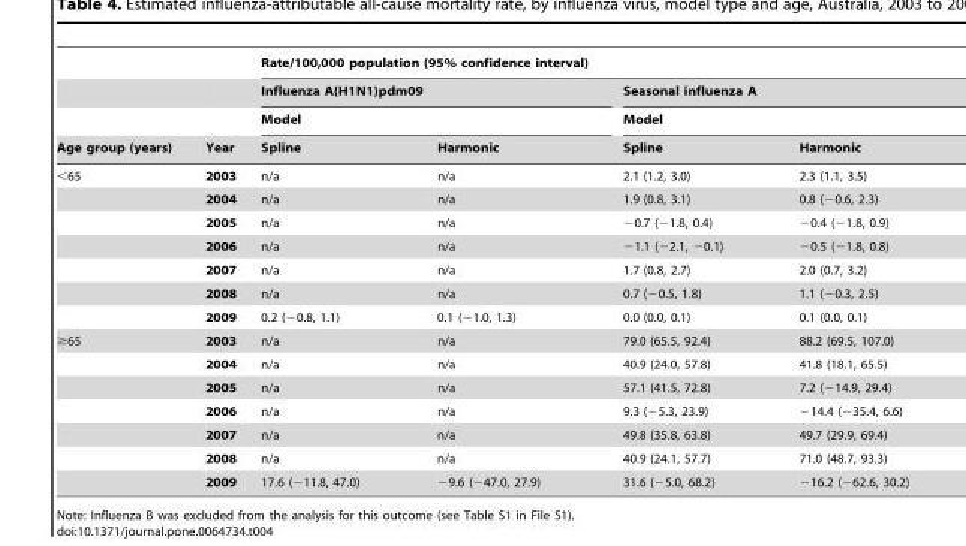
<table><thead><tr><td rowspan="4">Age group (years)</td><td rowspan="4">Year</td><td colspan="4">Rate/100,000 population (95% confidence interval)</td></tr><tr><td rowspan="2" colspan="2">Influenza A(H1N1)pdm09 Model</td><td rowspan="2" colspan="2">Seasonal influenza A Model</td></tr><tr></tr><tr><td>Spline</td><td>Harmonic</td><td>Spline</td><td>Harmonic</td></tr></thead><tbody><tr><td rowspan="7">&lt;65</td><td>2003</td><td>n/a</td><td>n/a</td><td>2.1 (1.2, 3.0)</td><td>2.3 (1.1, 3.5)</td></tr><tr><td>2004</td><td>n/a</td><td>n/a</td><td>1.9 (0.8, 3.1)</td><td>0.8 (−0.6, 2.3)</td></tr><tr><td>2005</td><td>n/a</td><td>n/a</td><td>−0.7 (−1.8, 0.4)</td><td>−0.4 (−1.8, 0.9)</td></tr><tr><td>2006</td><td>n/a</td><td>n/a</td><td>−1.1 (−2.1, −0.1)</td><td>−0.5 (−1.8, 0.8)</td></tr><tr><td>2007</td><td>n/a</td><td>n/a</td><td>1.7 (0.8, 2.7)</td><td>2.0 (0.7, 3.2)</td></tr><tr><td>2008</td><td>n/a</td><td>n/a</td><td>0.7 (−0.5, 1.8)</td><td>1.1 (−0.3, 2.5)</td></tr><tr><td>2009</td><td>0.2 (−0.8, 1.1)</td><td>0.1 (−1.0, 1.3)</td><td>0.0 (0.0, 0.1)</td><td>0.1 (0.0, 0.1)</td></tr><tr><td rowspan="7">≥65</td><td>2003</td><td>n/a</td><td>n/a</td><td>79.0 (65.5, 92.4)</td><td>88.2 (69.5, 107.0)</td></tr><tr><td>2004</td><td>n/a</td><td>n/a</td><td>40.9 (24.0, 57.8)</td><td>41.8 (18.1, 65.5)</td></tr><tr><td>2005</td><td>n/a</td><td>n/a</td><td>57.1 (41.5, 72.8)</td><td>7.2 (−14.9, 29.4)</td></tr><tr><td>2006</td><td>n/a</td><td>n/a</td><td>9.3 (−5.3, 23.9)</td><td>−14.4 (−35.4, 6.6)</td></tr><tr><td>2007</td><td>n/a</td><td>n/a</td><td>49.8 (35.8, 63.8)</td><td>49.7 (29.9, 69.4)</td></tr><tr><td>2008</td><td>n/a</td><td>n/a</td><td>40.9 (24.1, 57.7)</td><td>71.0 (48.7, 93.3)</td></tr><tr><td>2009</td><td>17.6 (−11.8, 47.0)</td><td>−9.6 (−47.0, 27.9)</td><td>31.6 (−5.0, 68.2)</td><td>−16.2 (−62.6, 30.2)</td></tr></tbody></table>